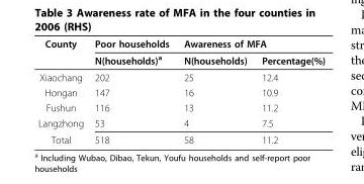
<table><thead><tr><td rowspan="2">County</td><td rowspan="2">Poor households N(households)<sup>a</sup></td><td colspan="2">Awareness of MFA</td></tr><tr><td>N(households)</td><td>Percentage(%)</td></tr></thead><tbody><tr><td>Xiaochang</td><td>202</td><td>25</td><td>12.4</td></tr><tr><td>Hongan</td><td>147</td><td>16</td><td>10.9</td></tr><tr><td>Fushun</td><td>116</td><td>13</td><td>11.2</td></tr><tr><td>Langzhong</td><td>53</td><td>4</td><td>7.5</td></tr><tr><td>Total</td><td>518</td><td>58</td><td>11.2</td></tr></tbody></table>